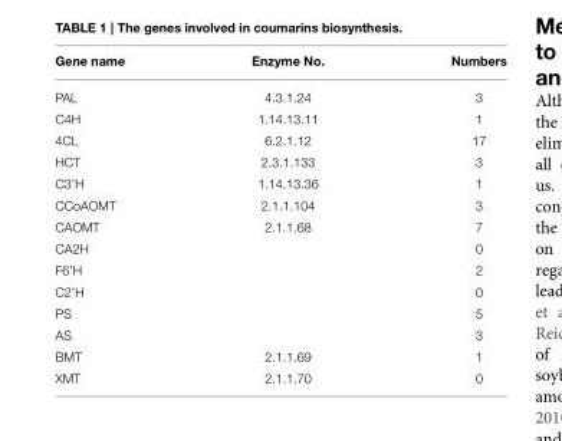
<table><thead><tr><td>Gene name</td><td>Enzyme No.</td><td>Numbers</td></tr></thead><tbody><tr><td>PAL</td><td>4.3.1.24</td><td>3</td></tr><tr><td>C4H</td><td>1.14.13.11</td><td>1</td></tr><tr><td>4CL</td><td>6.2.1.12</td><td>17</td></tr><tr><td>HCT</td><td>2.3.1.133</td><td>3</td></tr><tr><td>C3’H</td><td>1.14.13.36</td><td>1</td></tr><tr><td>CCoAOMT</td><td>2.1.1.104</td><td>3</td></tr><tr><td>CAOMT</td><td>2.1.1.68</td><td>7</td></tr><tr><td>CA2H</td><td></td><td>0</td></tr><tr><td>F6’H</td><td></td><td>2</td></tr><tr><td>C2’H</td><td></td><td>0</td></tr><tr><td>PS</td><td></td><td>5</td></tr><tr><td>AS</td><td></td><td>3</td></tr><tr><td>BMT</td><td>2.1.1.69</td><td>1</td></tr><tr><td>XMT</td><td>2.1.1.70</td><td>0</td></tr></tbody></table>